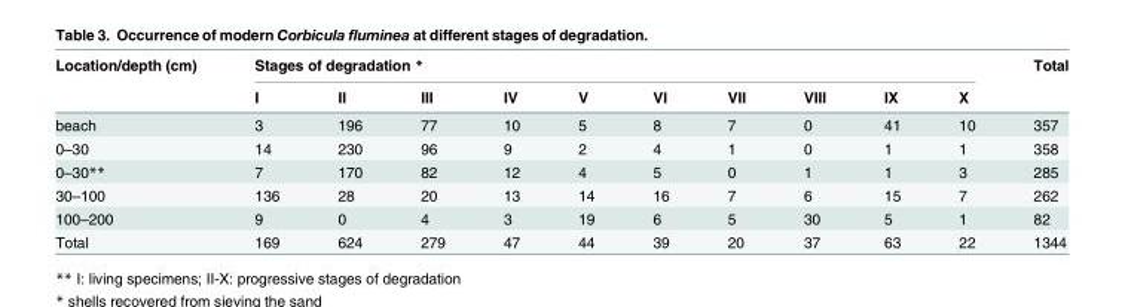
<table><thead><tr><td rowspan="2">Location/depth (cm)</td><td colspan="10">Stages of degradation *</td><td rowspan="2">Total</td></tr><tr><td>I</td><td>II</td><td>III</td><td>IV</td><td>V</td><td>VI</td><td>VII</td><td>VIII</td><td>IX</td><td>X</td></tr></thead><tbody><tr><td>beach</td><td>3</td><td>196</td><td>77</td><td>10</td><td>5</td><td>8</td><td>7</td><td>0</td><td>41</td><td>10</td><td>357</td></tr><tr><td>0–30</td><td>14</td><td>230</td><td>96</td><td>9</td><td>2</td><td>4</td><td>1</td><td>0</td><td>1</td><td>1</td><td>358</td></tr><tr><td>0–30**</td><td>7</td><td>170</td><td>82</td><td>12</td><td>4</td><td>5</td><td>0</td><td>1</td><td>1</td><td>3</td><td>285</td></tr><tr><td>30–100</td><td>136</td><td>28</td><td>20</td><td>13</td><td>14</td><td>16</td><td>7</td><td>6</td><td>15</td><td>7</td><td>262</td></tr><tr><td>100–200</td><td>9</td><td>0</td><td>4</td><td>3</td><td>19</td><td>6</td><td>5</td><td>30</td><td>5</td><td>1</td><td>82</td></tr><tr><td>Total</td><td>169</td><td>624</td><td>279</td><td>47</td><td>44</td><td>39</td><td>20</td><td>37</td><td>63</td><td>22</td><td>1344</td></tr></tbody></table>